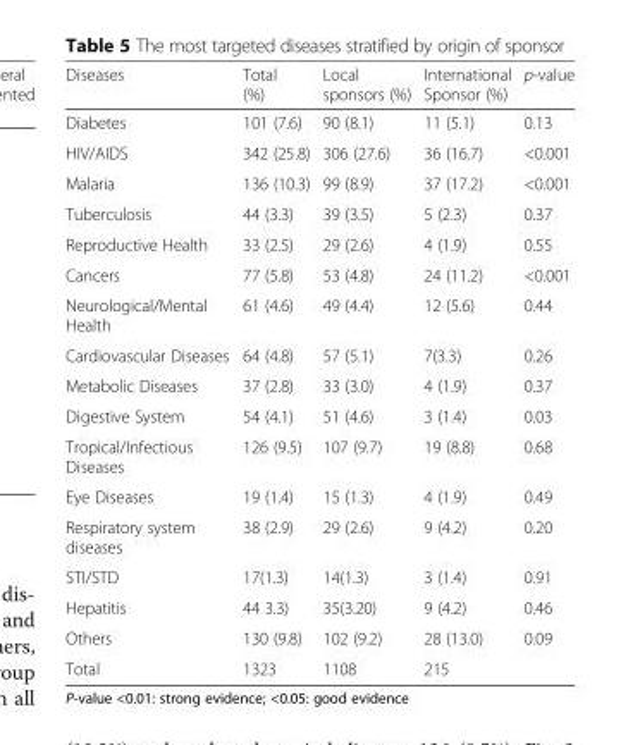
<table><thead><tr><td>Diseases</td><td>Total (%)</td><td>Local sponsors (%)</td><td>International Sponsor (%)</td><td>p-value</td></tr></thead><tbody><tr><td>Diabetes</td><td>101 (7.6)</td><td>90 (8.1)</td><td>11 (5.1)</td><td>0.13</td></tr><tr><td>HIV/AIDS</td><td>342 (25.8)</td><td>306 (27.6)</td><td>36 (16.7)</td><td>&lt;0.001</td></tr><tr><td>Malaria</td><td>136 (10.3)</td><td>99 (8.9)</td><td>37 (17.2)</td><td>&lt;0.001</td></tr><tr><td>Tuberculosis</td><td>44 (3.3)</td><td>39 (3.5)</td><td>5 (2.3)</td><td>0.37</td></tr><tr><td>Reproductive Health</td><td>33 (2.5)</td><td>29 (2.6)</td><td>4 (1.9)</td><td>0.55</td></tr><tr><td>Cancers</td><td>77 (5.8)</td><td>53 (4.8)</td><td>24 (11.2)</td><td>&lt;0.001</td></tr><tr><td>Neurological/Mental Health</td><td>61 (4.6)</td><td>49 (4.4)</td><td>12 (5.6)</td><td>0.44</td></tr><tr><td>Cardiovascular Diseases</td><td>64 (4.8)</td><td>57 (5.1)</td><td>7(3.3)</td><td>0.26</td></tr><tr><td>Metabolic Diseases</td><td>37 (2.8)</td><td>33 (3.0)</td><td>4 (1.9)</td><td>0.37</td></tr><tr><td>Digestive System</td><td>54 (4.1)</td><td>51 (4.6)</td><td>3 (1.4)</td><td>0.03</td></tr><tr><td>Tropical/Infectious Diseases</td><td>126 (9.5)</td><td>107 (9.7)</td><td>19 (8.8)</td><td>0.68</td></tr><tr><td>Eye Diseases</td><td>19 (1.4)</td><td>15 (1.3)</td><td>4 (1.9)</td><td>0.49</td></tr><tr><td>Respiratory system diseases</td><td>38 (2.9)</td><td>29 (2.6)</td><td>9 (4.2)</td><td>0.20</td></tr><tr><td>STI/STD</td><td>17(1.3)</td><td>14(1.3)</td><td>3 (1.4)</td><td>0.91</td></tr><tr><td>Hepatitis</td><td>44 3.3)</td><td>35(3.20)</td><td>9 (4.2)</td><td>0.46</td></tr><tr><td>Others</td><td>130 (9.8)</td><td>102 (9.2)</td><td>28 (13.0)</td><td>0.09</td></tr><tr><td>Total</td><td>1323</td><td>1108</td><td>215</td><td></td></tr></tbody></table>